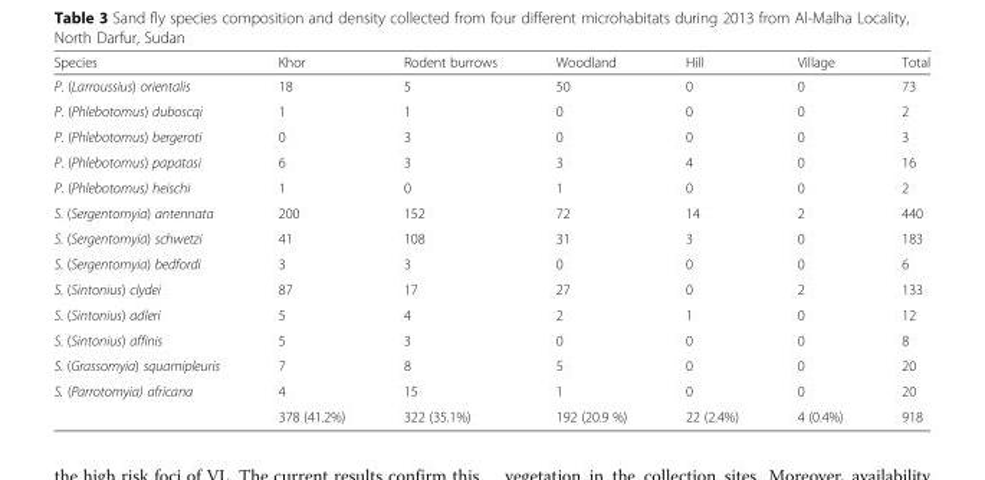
<table><thead><tr><td>Species</td><td>Khor</td><td>Rodent burrows</td><td>Woodland</td><td>Hill</td><td>Village</td><td>Total</td></tr></thead><tbody><tr><td>P. (Larroussius) orientalis</td><td>18</td><td>5</td><td>50</td><td>0</td><td>0</td><td>73</td></tr><tr><td>P. (Phlebotomus) duboscqi</td><td>1</td><td>1</td><td>0</td><td>0</td><td>0</td><td>2</td></tr><tr><td>P. (Phlebotomus) bergeroti</td><td>0</td><td>3</td><td>0</td><td>0</td><td>0</td><td>3</td></tr><tr><td>P. (Phlebotomus) papatasi</td><td>6</td><td>3</td><td>3</td><td>4</td><td>0</td><td>16</td></tr><tr><td>P. (Phlebotomus) heischi</td><td>1</td><td>0</td><td>1</td><td>0</td><td>0</td><td>2</td></tr><tr><td>S. (Sergentomyia) antennata</td><td>200</td><td>152</td><td>72</td><td>14</td><td>2</td><td>440</td></tr><tr><td>S. (Sergentomyia) schwetzi</td><td>41</td><td>108</td><td>31</td><td>3</td><td>0</td><td>183</td></tr><tr><td>S. (Sergentomyia) bedfordi</td><td>3</td><td>3</td><td>0</td><td>0</td><td>0</td><td>6</td></tr><tr><td>S. (Sintonius) clydei</td><td>87</td><td>17</td><td>27</td><td>0</td><td>2</td><td>133</td></tr><tr><td>S. (Sintonius) adleri</td><td>5</td><td>4</td><td>2</td><td>1</td><td>0</td><td>12</td></tr><tr><td>S. (Sintonius) affinis</td><td>5</td><td>3</td><td>0</td><td>0</td><td>0</td><td>8</td></tr><tr><td>S. (Grassomyia) squamipleuris</td><td>7</td><td>8</td><td>5</td><td>0</td><td>0</td><td>20</td></tr><tr><td rowspan="2">S. (Parrotomyia) africana</td><td>4</td><td>15</td><td>1</td><td>0</td><td>0</td><td>20</td></tr><tr><td>378 (41.2%)</td><td>322 (35.1%)</td><td>192 (20.9 %)</td><td>22 (2.4%)</td><td>4 (0.4%)</td><td>918</td></tr></tbody></table>